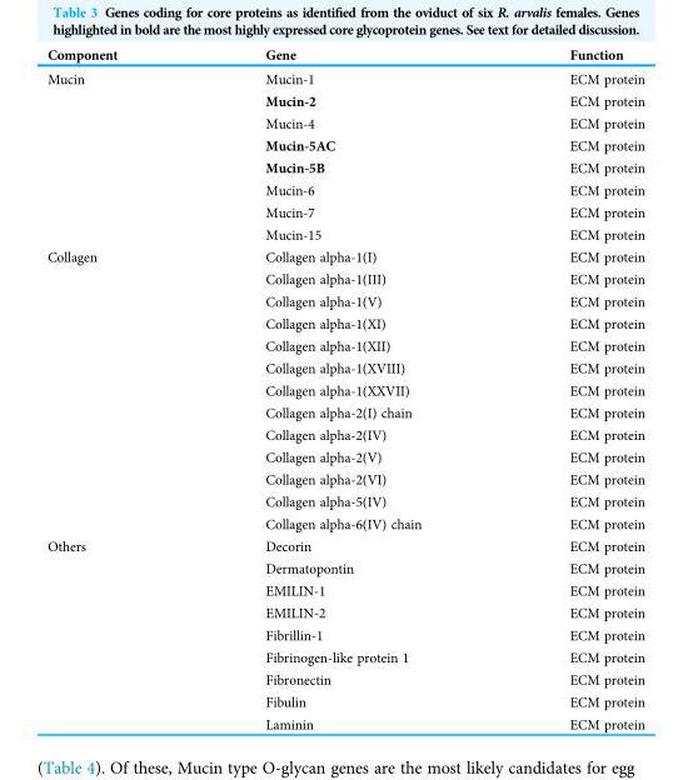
<table><thead><tr><td>Component</td><td>Gene</td><td>Function</td></tr></thead><tbody><tr><td rowspan="8">Mucin</td><td>Mucin-1</td><td>ECM protein</td></tr><tr><td>Mucin-2</td><td>ECM protein</td></tr><tr><td>Mucin-4</td><td>ECM protein</td></tr><tr><td>Mucin-5AC</td><td>ECM protein</td></tr><tr><td>Mucin-5B</td><td>ECM protein</td></tr><tr><td>Mucin-6</td><td>ECM protein</td></tr><tr><td>Mucin-7</td><td>ECM protein</td></tr><tr><td>Mucin-15</td><td>ECM protein</td></tr><tr><td rowspan="13">Collagen</td><td>Collagen alpha-1(I)</td><td>ECM protein</td></tr><tr><td>Collagen alpha-1(III)</td><td>ECM protein</td></tr><tr><td>Collagen alpha-1(V)</td><td>ECM protein</td></tr><tr><td>Collagen alpha-1(XI)</td><td>ECM protein</td></tr><tr><td>Collagen alpha-1(XII)</td><td>ECM protein</td></tr><tr><td>Collagen alpha-1(XVIII)</td><td>ECM protein</td></tr><tr><td>Collagen alpha-1(XXVII)</td><td>ECM protein</td></tr><tr><td>Collagen alpha-2(I) chain</td><td>ECM protein</td></tr><tr><td>Collagen alpha-2(IV)</td><td>ECM protein</td></tr><tr><td>Collagen alpha-2(V)</td><td>ECM protein</td></tr><tr><td>Collagen alpha-2(VI)</td><td>ECM protein</td></tr><tr><td>Collagen alpha-5(IV)</td><td>ECM protein</td></tr><tr><td>Collagen alpha-6(IV) chain</td><td>ECM protein</td></tr><tr><td rowspan="9">Others</td><td>Decorin</td><td>ECM protein</td></tr><tr><td>Dermatopontin</td><td>ECM protein</td></tr><tr><td>EMILIN-1</td><td>ECM protein</td></tr><tr><td>EMILIN-2</td><td>ECM protein</td></tr><tr><td>Fibrillin-1</td><td>ECM protein</td></tr><tr><td>Fibrinogen-like protein 1</td><td>ECM protein</td></tr><tr><td>Fibronectin</td><td>ECM protein</td></tr><tr><td>Fibulin</td><td>ECM protein</td></tr><tr><td>Laminin</td><td>ECM protein</td></tr></tbody></table>